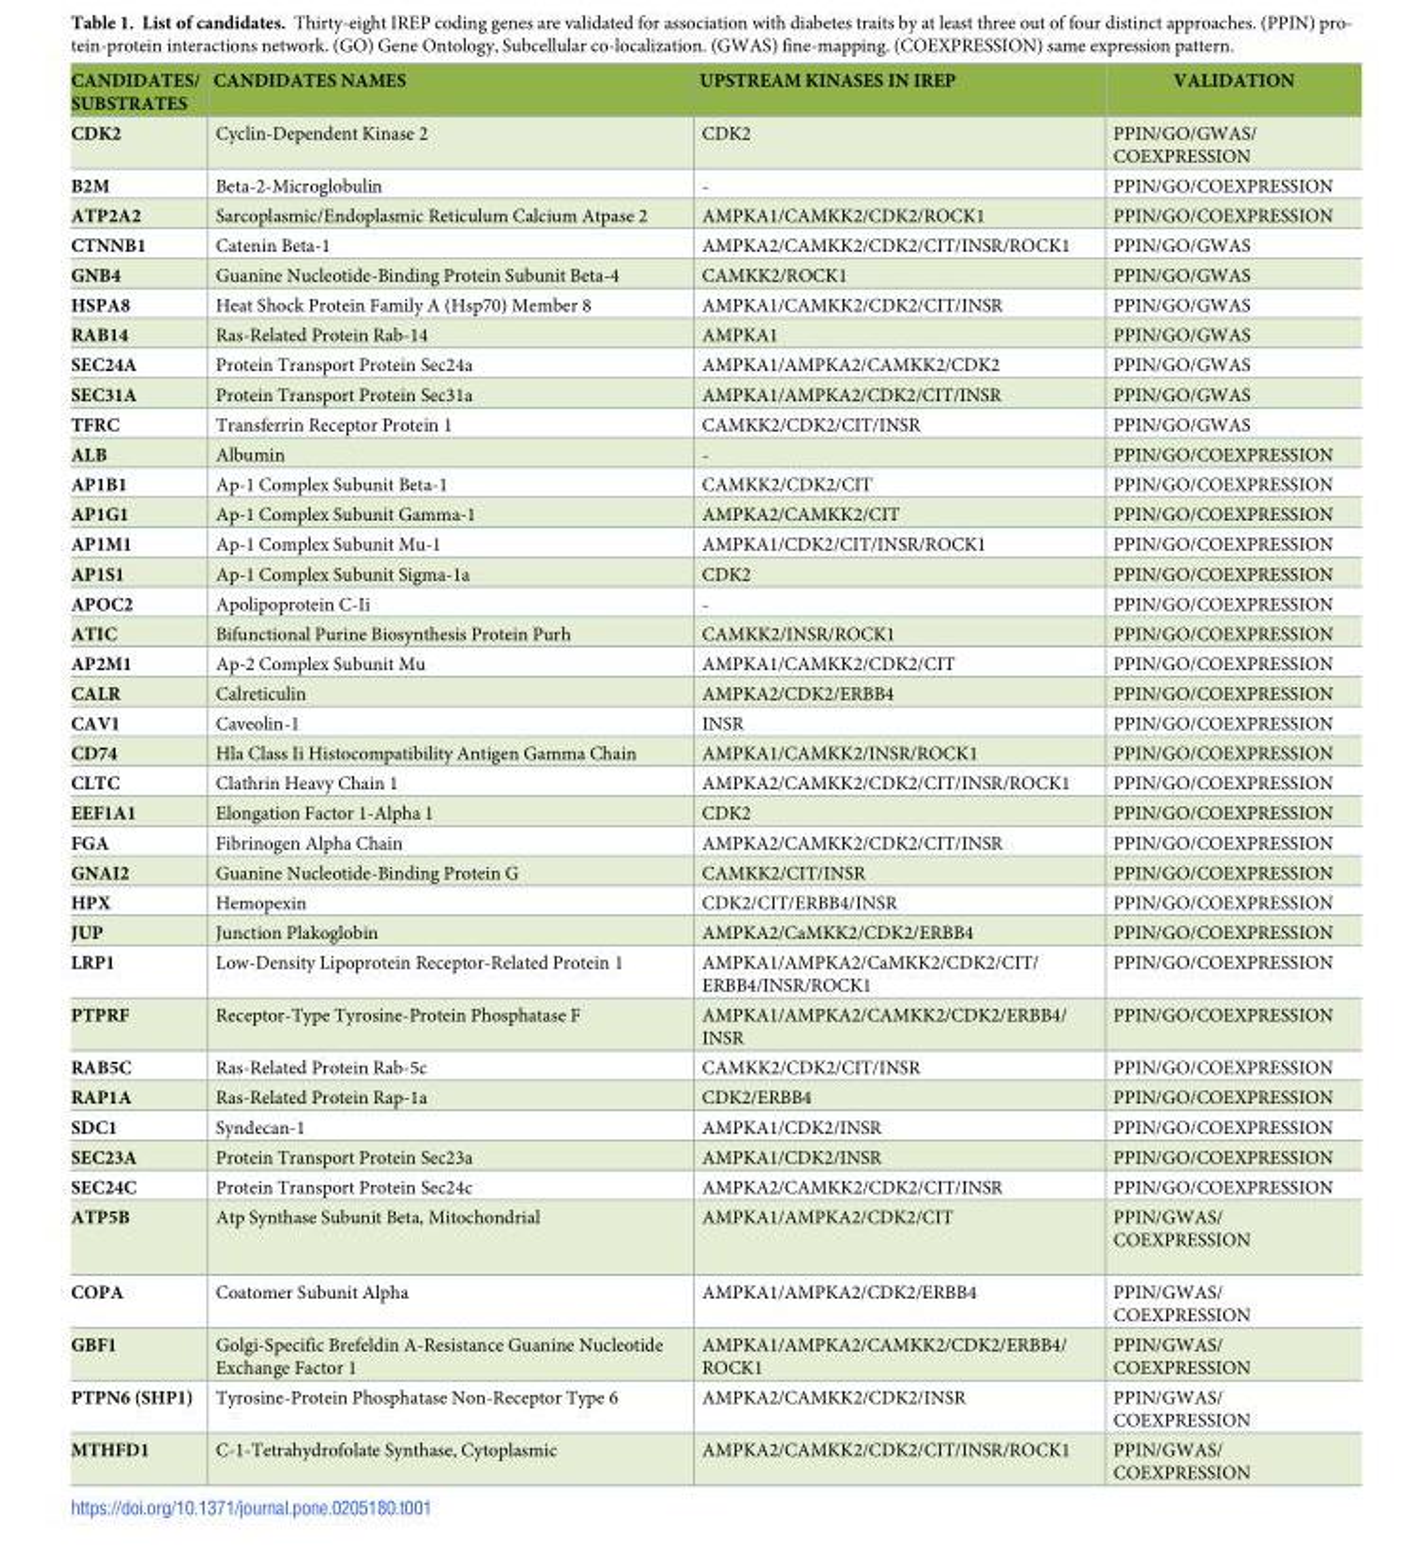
<table><thead><tr><td>CANDIDATES/ SUBSTRATES</td><td>CANDIDATES NAMES</td><td>UPSTREAM KINASES IN IREP</td><td>VALIDATION</td></tr></thead><tbody><tr><td>CDK2</td><td>Cyclin-Dependent Kinase 2</td><td>CDK2</td><td>PPIN/GO/GWAS/ COEXPRESSION</td></tr><tr><td>B2M</td><td>Beta-2-Microglobulin</td><td>-</td><td>PPIN/GO/COEXPRESSION</td></tr><tr><td>ATP2A2</td><td>Sarcoplasmic/Endoplasmic Reticulum Calcium Atpase 2</td><td>AMPKA1/CAMKK2/CDK2/ROCK1</td><td>PPIN/GO/COEXPRESSION</td></tr><tr><td>CTNNB1</td><td>Catenin Beta-1</td><td>AMPKA2/CAMKK2/CDK2/CIT/INSR/ROCK1</td><td>PPIN/GO/GWAS</td></tr><tr><td>GNB4</td><td>Guanine Nucleotide-Binding Protein Subunit Beta-4</td><td>CAMKK2/ROCK1</td><td>PPIN/GO/GWAS</td></tr><tr><td>HSPA8</td><td>Heat Shock Protein Family A (Hsp70) Member 8</td><td>AMPKA1/CAMKK2/CDK2/CIT/INSR</td><td>PPIN/GO/GWAS</td></tr><tr><td>RAB14</td><td>Ras-Related Protein Rab-14</td><td>AMPKA1</td><td>PPIN/GO/GWAS</td></tr><tr><td>SEC24A</td><td>Protein Transport Protein Sec24a</td><td>AMPKA1/AMPKA2/CAMKK2/CDK2</td><td>PPIN/GO/GWAS</td></tr><tr><td>SEC31A</td><td>Protein Transport Protein Sec31a</td><td>AMPKA1/AMPKA2/CDK2/CIT/INSR</td><td>PPIN/GO/GWAS</td></tr><tr><td>TFRC</td><td>Transferrin Receptor Protein 1</td><td>CAMKK2/CDK2/CIT/INSR</td><td>PPIN/GO/GWAS</td></tr><tr><td>ALB</td><td>Albumin</td><td>-</td><td>PPIN/GO/COEXPRESSION</td></tr><tr><td>AP1B1</td><td>Ap-1 Complex Subunit Beta-1</td><td>CAMKK2/CDK2/CIT</td><td>PPIN/GO/COEXPRESSION</td></tr><tr><td>AP1G1</td><td>Ap-1 Complex Subunit Gamma-1</td><td>AMPKA2/CAMKK2/CIT</td><td>PPIN/GO/COEXPRESSION</td></tr><tr><td>AP1M1</td><td>Ap-1 Complex Subunit Mu-1</td><td>AMPKA1/CDK2/CIT/INSR/ROCK1</td><td>PPIN/GO/COEXPRESSION</td></tr><tr><td>AP1S1</td><td>Ap-1 Complex Subunit Sigma-1a</td><td>CDK2</td><td>PPIN/GO/COEXPRESSION</td></tr><tr><td>APOC2</td><td>Apolipoprotein C-Ii</td><td>-</td><td>PPIN/GO/COEXPRESSION</td></tr><tr><td>ATIC</td><td>Bifunctional Purine Biosynthesis Protein Purh</td><td>CAMKK2/INSR/ROCK1</td><td>PPIN/GO/COEXPRESSION</td></tr><tr><td>AP2M1</td><td>Ap-2 Complex Subunit Mu</td><td>AMPKA1/CAMKK2/CDK2/CIT</td><td>PPIN/GO/COEXPRESSION</td></tr><tr><td>CALR</td><td>Calreticulin</td><td>AMPKA2/CDK2/ERBB4</td><td>PPIN/GO/COEXPRESSION</td></tr><tr><td>CAV1</td><td>Caveolin-1</td><td>INSR</td><td>PPIN/GO/COEXPRESSION</td></tr><tr><td>CD74</td><td>Hla Class Ii Histocompatibility Antigen Gamma Chain</td><td>AMPKA1/CAMKK2/INSR/ROCK1</td><td>PPIN/GO/COEXPRESSION</td></tr><tr><td>CLTC</td><td>Clathrin Heavy Chain 1</td><td>AMPKA2/CAMKK2/CDK2/CIT/INSR/ROCK1</td><td>PPIN/GO/COEXPRESSION</td></tr><tr><td>EEF1A1</td><td>Elongation Factor 1-Alpha 1</td><td>CDK2</td><td>PPIN/GO/COEXPRESSION</td></tr><tr><td>FGA</td><td>Fibrinogen Alpha Chain</td><td>AMPKA2/CAMKK2/CDK2/CIT/INSR</td><td>PPIN/GO/COEXPRESSION</td></tr><tr><td>GNAI2</td><td>Guanine Nucleotide-Binding Protein G</td><td>CAMKK2/CIT/INSR</td><td>PPIN/GO/COEXPRESSION</td></tr><tr><td>HPX</td><td>Hemopexin</td><td>CDK2/CIT/ERBB4/INSR</td><td>PPIN/GO/COEXPRESSION</td></tr><tr><td>JUP</td><td>Junction Plakoglobin</td><td>AMPKA2/CaMKK2/CDK2/ERBB4</td><td>PPIN/GO/COEXPRESSION</td></tr><tr><td>LRP1</td><td>Low-Density Lipoprotein Receptor-Related Protein 1</td><td>AMPKA1/AMPKA2/CaMKK2/CDK2/CIT/ ERBB4/INSR/ROCK1</td><td>PPIN/GO/COEXPRESSION</td></tr><tr><td>PTPRF</td><td>Receptor-Type Tyrosine-Protein Phosphatase F</td><td>AMPKA1/AMPKA2/CAMKK2/CDK2/ERBB4/ INSR</td><td>PPIN/GO/COEXPRESSION</td></tr><tr><td>RAB5C</td><td>Ras-Related Protein Rab-5c</td><td>CAMKK2/CDK2/CIT/INSR</td><td>PPIN/GO/COEXPRESSION</td></tr><tr><td>RAP1A</td><td>Ras-Related Protein Rap-1a</td><td>CDK2/ERBB4</td><td>PPIN/GO/COEXPRESSION</td></tr><tr><td>SDC1</td><td>Syndecan-1</td><td>AMPKA1/CDK2/INSR</td><td>PPIN/GO/COEXPRESSION</td></tr><tr><td>SEC23A</td><td>Protein Transport Protein Sec23a</td><td>AMPKA1/CDK2/INSR</td><td>PPIN/GO/COEXPRESSION</td></tr><tr><td>SEC24C</td><td>Protein Transport Protein Sec24c</td><td>AMPKA2/CAMKK2/CDK2/CIT/INSR</td><td>PPIN/GO/COEXPRESSION</td></tr><tr><td>ATP5B</td><td>Atp Synthase Subunit Beta, Mitochondrial</td><td>AMPKA1/AMPKA2/CDK2/CIT</td><td>PPIN/GWAS/ COEXPRESSION</td></tr><tr><td>COPA</td><td>Coatomer Subunit Alpha</td><td>AMPKA1/AMPKA2/CDK2/ERBB4</td><td>PPIN/GWAS/ COEXPRESSION</td></tr><tr><td>GBF1</td><td>Golgi-Specific Brefeldin A-Resistance Guanine Nucleotide Exchange Factor 1</td><td>AMPKA1/AMPKA2/CAMKK2/CDK2/ERBB4/ ROCK1</td><td>PPIN/GWAS/ COEXPRESSION</td></tr><tr><td>PTPN6 (SHP1)</td><td>Tyrosine-Protein Phosphatase Non-Receptor Type 6</td><td>AMPKA2/CAMKK2/CDK2/INSR</td><td>PPIN/GWAS/ COEXPRESSION</td></tr><tr><td>MTHFD1</td><td>C-1-Tetrahydrofolate Synthase, Cytoplasmic</td><td>AMPKA2/CAMKK2/CDK2/CIT/INSR/ROCK1</td><td>PPIN/GWAS/ COEXPRESSION</td></tr></tbody></table>